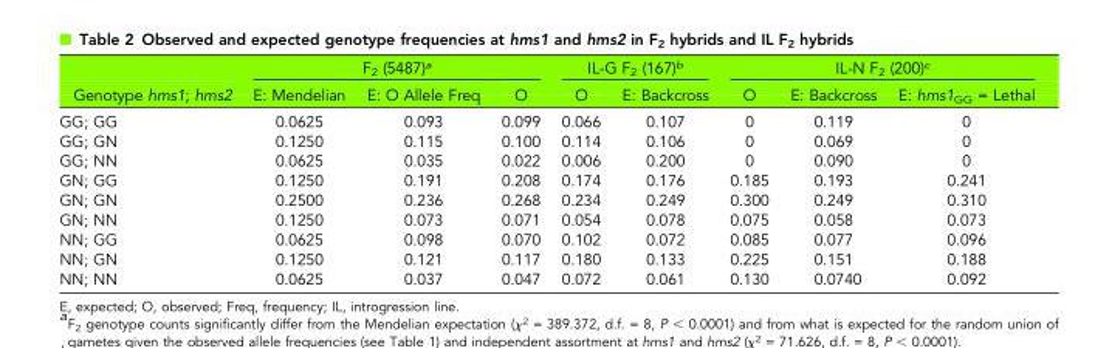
<table><thead><tr><td rowspan="2">Genotype hms1; hms2</td><td colspan="3">F<sub>2</sub> (5487)<sup>a</sup></td><td colspan="2">IL-G F<sub>2</sub> (167)<sup>b</sup></td><td colspan="3">IL-N F<sub>2</sub> (200)<sup>c</sup></td></tr><tr><td>E: Mendelian</td><td>E: O Allele Freq</td><td>O</td><td>O</td><td>E: Backcross</td><td>O</td><td>E: Backcross</td><td>E: hms1<sub>GG</sub> = Lethal</td></tr></thead><tbody><tr><td>GG; GG</td><td>0.0625</td><td>0.093</td><td>0.099</td><td>0.066</td><td>0.107</td><td>0</td><td>0.119</td><td>0</td></tr><tr><td>GG; GN</td><td>0.1250</td><td>0.115</td><td>0.100</td><td>0.114</td><td>0.106</td><td>0</td><td>0.069</td><td>0</td></tr><tr><td>GG; NN</td><td>0.0625</td><td>0.035</td><td>0.022</td><td>0.006</td><td>0.200</td><td>0</td><td>0.090</td><td>0</td></tr><tr><td>GN; GG</td><td>0.1250</td><td>0.191</td><td>0.208</td><td>0.174</td><td>0.176</td><td>0.185</td><td>0.193</td><td>0.241</td></tr><tr><td>GN; GN</td><td>0.2500</td><td>0.236</td><td>0.268</td><td>0.234</td><td>0.249</td><td>0.300</td><td>0.249</td><td>0.310</td></tr><tr><td>GN; NN</td><td>0.1250</td><td>0.073</td><td>0.071</td><td>0.054</td><td>0.078</td><td>0.075</td><td>0.058</td><td>0.073</td></tr><tr><td>NN; GG</td><td>0.0625</td><td>0.098</td><td>0.070</td><td>0.102</td><td>0.072</td><td>0.085</td><td>0.077</td><td>0.096</td></tr><tr><td>NN; GN</td><td>0.1250</td><td>0.121</td><td>0.117</td><td>0.180</td><td>0.133</td><td>0.225</td><td>0.151</td><td>0.188</td></tr><tr><td>NN; NN</td><td>0.0625</td><td>0.037</td><td>0.047</td><td>0.072</td><td>0.061</td><td>0.130</td><td>0.0740</td><td>0.092</td></tr></tbody></table>